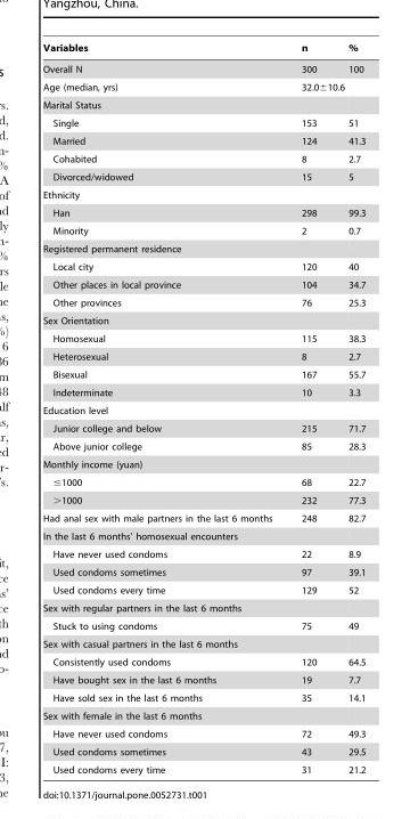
<table><thead><tr><td>Variables</td><td>n</td><td>%</td></tr></thead><tbody><tr><td>Overall N</td><td>300</td><td>100</td></tr><tr><td>Age (median, yrs)</td><td>32.0±10.6</td><td></td></tr><tr><td colspan="3">Marital Status</td></tr><tr><td>Single</td><td>153</td><td>51</td></tr><tr><td>Married</td><td>124</td><td>41.3</td></tr><tr><td>Cohabited</td><td>8</td><td>2.7</td></tr><tr><td>Divorced/widowed</td><td>15</td><td>5</td></tr><tr><td colspan="3">Ethnicity</td></tr><tr><td>Han</td><td>298</td><td>99.3</td></tr><tr><td>Minority</td><td>2</td><td>0.7</td></tr><tr><td colspan="3">Registered permanent residence</td></tr><tr><td>Local city</td><td>120</td><td>40</td></tr><tr><td>Other places in local province</td><td>104</td><td>34.7</td></tr><tr><td>Other provinces</td><td>76</td><td>25.3</td></tr><tr><td colspan="3">Sex Orientation</td></tr><tr><td>Homosexual</td><td>115</td><td>38.3</td></tr><tr><td>Heterosexual</td><td>8</td><td>2.7</td></tr><tr><td>Bisexual</td><td>167</td><td>55.7</td></tr><tr><td>Indeterminate</td><td>10</td><td>3.3</td></tr><tr><td colspan="3">Education level</td></tr><tr><td>Junior college and below</td><td>215</td><td>71.7</td></tr><tr><td>Above junior college</td><td>85</td><td>28.3</td></tr><tr><td colspan="3">Monthly income (yuan)</td></tr><tr><td>≤1000</td><td>68</td><td>22.7</td></tr><tr><td>&gt;1000</td><td>232</td><td>77.3</td></tr><tr><td>Had anal sex with male partners in the last 6 months</td><td>248</td><td>82.7</td></tr><tr><td colspan="3">In the last 6 months’ homosexual encounters</td></tr><tr><td>Have never used condoms</td><td>22</td><td>8.9</td></tr><tr><td>Used condoms sometimes</td><td>97</td><td>39.1</td></tr><tr><td>Used condoms every time</td><td>129</td><td>52</td></tr><tr><td colspan="3">Sex with regular partners in the last 6 months</td></tr><tr><td>Stuck to using condoms</td><td>75</td><td>49</td></tr><tr><td colspan="3">Sex with casual partners in the last 6 months</td></tr><tr><td>Consistently used condoms</td><td>120</td><td>64.5</td></tr><tr><td>Have bought sex in the last 6 months</td><td>19</td><td>7.7</td></tr><tr><td>Have sold sex in the last 6 months</td><td>35</td><td>14.1</td></tr><tr><td colspan="3">Sex with female in the last 6 months</td></tr><tr><td>Have never used condoms</td><td>72</td><td>49.3</td></tr><tr><td>Used condoms sometimes</td><td>43</td><td>29.5</td></tr><tr><td>Used condoms every time</td><td>31</td><td>21.2</td></tr></tbody></table>